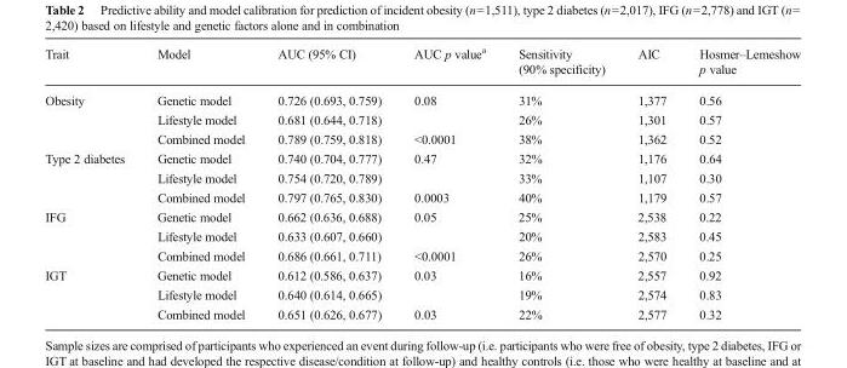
<table><thead><tr><td>Trait</td><td>Model</td><td>AUC (95% CI)</td><td>AUC p value<sup>a</sup></td><td>Sensitivity (90% specificity)</td><td>AIC</td><td>Hosmer–Lemeshow p value</td></tr></thead><tbody><tr><td rowspan="3">Obesity</td><td>Genetic model</td><td>0.726 (0.693, 0.759)</td><td>0.08</td><td>31%</td><td>1,377</td><td>0.56</td></tr><tr><td>Lifestyle model</td><td>0.681 (0.644, 0.718)</td><td></td><td>26%</td><td>1,301</td><td>0.57</td></tr><tr><td>Combined model</td><td>0.789 (0.759, 0.818)</td><td>&lt;0.0001</td><td>38%</td><td>1,362</td><td>0.52</td></tr><tr><td rowspan="3">Type 2 diabetes</td><td>Genetic model</td><td>0.740 (0.704, 0.777)</td><td>0.47</td><td>32%</td><td>1,176</td><td>0.64</td></tr><tr><td>Lifestyle model</td><td>0.754 (0.720, 0.789)</td><td></td><td>33%</td><td>1,107</td><td>0.30</td></tr><tr><td>Combined model</td><td>0.797 (0.765, 0.830)</td><td>0.0003</td><td>40%</td><td>1,179</td><td>0.57</td></tr><tr><td rowspan="3">IFG</td><td>Genetic model</td><td>0.662 (0.636, 0.688)</td><td>0.05</td><td>25%</td><td>2,538</td><td>0.22</td></tr><tr><td>Lifestyle model</td><td>0.633 (0.607, 0.660)</td><td></td><td>20%</td><td>2,583</td><td>0.45</td></tr><tr><td>Combined model</td><td>0.686 (0.661, 0.711)</td><td>&lt;0.0001</td><td>26%</td><td>2,570</td><td>0.25</td></tr><tr><td rowspan="3">IGT</td><td>Genetic model</td><td>0.612 (0.586, 0.637)</td><td>0.03</td><td>16%</td><td>2,557</td><td>0.92</td></tr><tr><td>Lifestyle model</td><td>0.640 (0.614, 0.665)</td><td></td><td>19%</td><td>2,574</td><td>0.83</td></tr><tr><td>Combined model</td><td>0.651 (0.626, 0.677)</td><td>0.03</td><td>22%</td><td>2,577</td><td>0.32</td></tr></tbody></table>